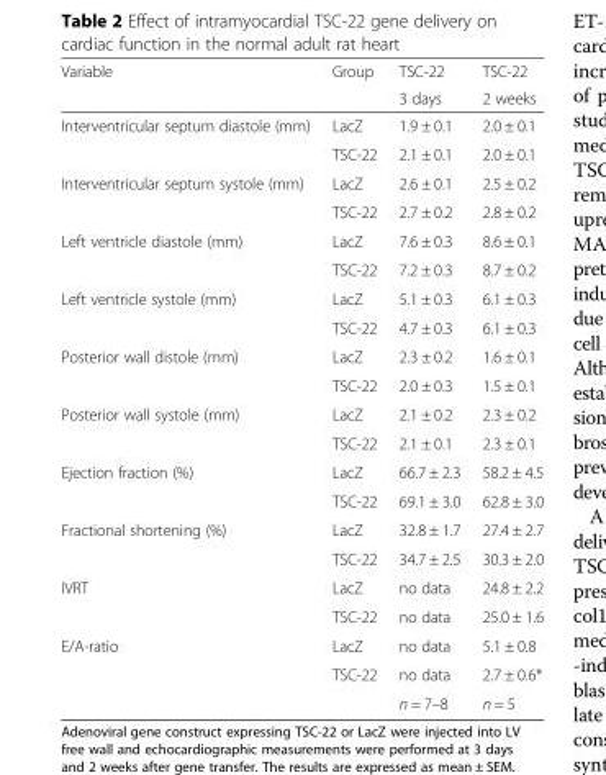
<table><thead><tr><td rowspan="2">Variable</td><td rowspan="2">Group</td><td rowspan="2">TSC-22 3 days</td><td rowspan="2">TSC-22 2 weeks</td></tr><tr></tr></thead><tbody><tr><td rowspan="2">Interventricular septum diastole (mm)</td><td>LacZ</td><td>1.9 ± 0.1</td><td>2.0 ± 0.1</td></tr><tr><td>TSC-22</td><td>2.1 ± 0.1</td><td>2.0 ± 0.1</td></tr><tr><td rowspan="2">Interventricular septum systole (mm)</td><td>LacZ</td><td>2.6 ± 0.1</td><td>2.5 ± 0.2</td></tr><tr><td>TSC-22</td><td>2.7 ± 0.2</td><td>2.8 ± 0.2</td></tr><tr><td rowspan="2">Left ventricle diastole (mm)</td><td>LacZ</td><td>7.6 ± 0.3</td><td>8.6 ± 0.1</td></tr><tr><td>TSC-22</td><td>7.2 ± 0.3</td><td>8.7 ± 0.2</td></tr><tr><td rowspan="2">Left ventricle systole (mm)</td><td>LacZ</td><td>5.1 ± 0.3</td><td>6.1 ± 0.3</td></tr><tr><td>TSC-22</td><td>4.7 ± 0.3</td><td>6.1 ± 0.3</td></tr><tr><td rowspan="2">Posterior wall distole (mm)</td><td>LacZ</td><td>2.3 ± 0.2</td><td>1.6 ± 0.1</td></tr><tr><td>TSC-22</td><td>2.0 ± 0.3</td><td>1.5 ± 0.1</td></tr><tr><td rowspan="2">Posterior wall systole (mm)</td><td>LacZ</td><td>2.1 ± 0.2</td><td>2.3 ± 0.2</td></tr><tr><td>TSC-22</td><td>2.1 ± 0.1</td><td>2.3 ± 0.1</td></tr><tr><td rowspan="2">Ejection fraction (%)</td><td>LacZ</td><td>66.7 ± 2.3</td><td>58.2 ± 4.5</td></tr><tr><td>TSC-22</td><td>69.1 ± 3.0</td><td>62.8 ± 3.0</td></tr><tr><td rowspan="2">Fractional shortening (%)</td><td>LacZ</td><td>32.8 ± 1.7</td><td>27.4 ± 2.7</td></tr><tr><td>TSC-22</td><td>34.7 ± 2.5</td><td>30.3 ± 2.0</td></tr><tr><td rowspan="2">IVRT</td><td>LacZ</td><td>no data</td><td>24.8 ± 2.2</td></tr><tr><td>TSC-22</td><td>no data</td><td>25.0 ± 1.6</td></tr><tr><td rowspan="3">E/A-ratio</td><td>LacZ</td><td>no data</td><td>5.1 ± 0.8</td></tr><tr><td>TSC-22</td><td>no data</td><td>2.7 ± 0.6*</td></tr><tr><td></td><td>n = 7–8</td><td>n = 5</td></tr></tbody></table>